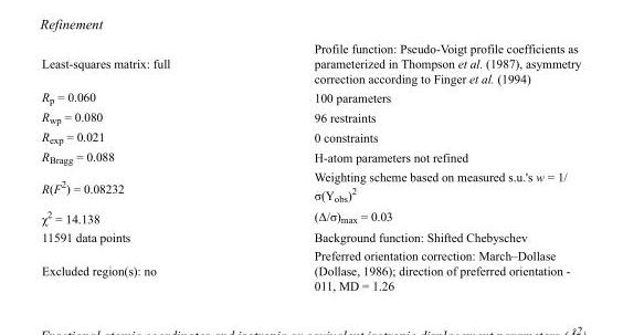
<table><tbody><tr><td>Least-squares matrix: full</td><td>Profile function: Pseudo-Voigt profile coefficients as parameterized in Thompson et al. (1987), asymmetry correction according to Finger et al. (1994)</td></tr><tr><td>R<sub>p</sub> = 0.060</td><td>100 parameters</td></tr><tr><td>R<sub>wp</sub> = 0.080</td><td>96 restraints</td></tr><tr><td>R<sub>exp</sub> = 0.021</td><td>0 constraints</td></tr><tr><td>R<sub>Bragg</sub> = 0.088</td><td>H-atom parameters not refined</td></tr><tr><td>R(F<sup>2</sup>) = 0.08232</td><td>Weighting scheme based on measured s.u.&#x27;s w = 1/ σ(Y<sub>obs</sub>)<sup>2</sup></td></tr><tr><td>χ<sup>2</sup> = 14.138</td><td>(Δ/σ)<sub>max</sub> = 0.03</td></tr><tr><td>11591 data points</td><td>Background function: Shifted Chebyschev</td></tr><tr><td>Excluded region(s): no</td><td>Preferred orientation correction: March–Dollase (Dollase, 1986); direction of preferred orientation - 011, MD = 1.26</td></tr></tbody></table>